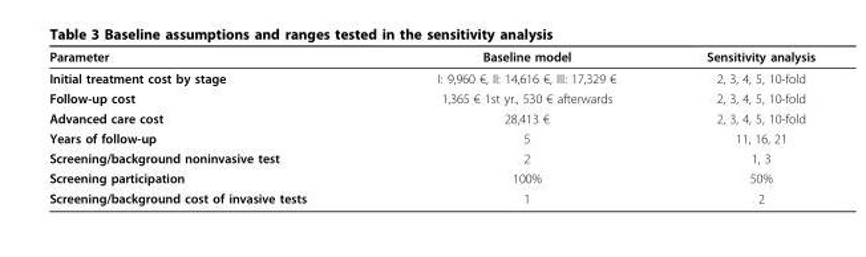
<table><thead><tr><td>Parameter</td><td>Baseline model</td><td>Sensitivity analysis</td></tr></thead><tbody><tr><td>Initial treatment cost by stage</td><td>I: 9,960 €, II: 14,616 €, III: 17,329 €</td><td>2, 3, 4, 5, 10-fold</td></tr><tr><td>Follow-up cost</td><td>1,365 € 1st yr., 530 € afterwards</td><td>2, 3, 4, 5, 10-fold</td></tr><tr><td>Advanced care cost</td><td>28,413 €</td><td>2, 3, 4, 5, 10-fold</td></tr><tr><td>Years of follow-up</td><td>5</td><td>11, 16, 21</td></tr><tr><td>Screening/background noninvasive test</td><td>2</td><td>1, 3</td></tr><tr><td>Screening participation</td><td>100%</td><td>50%</td></tr><tr><td>Screening/background cost of invasive tests</td><td>1</td><td>2</td></tr></tbody></table>